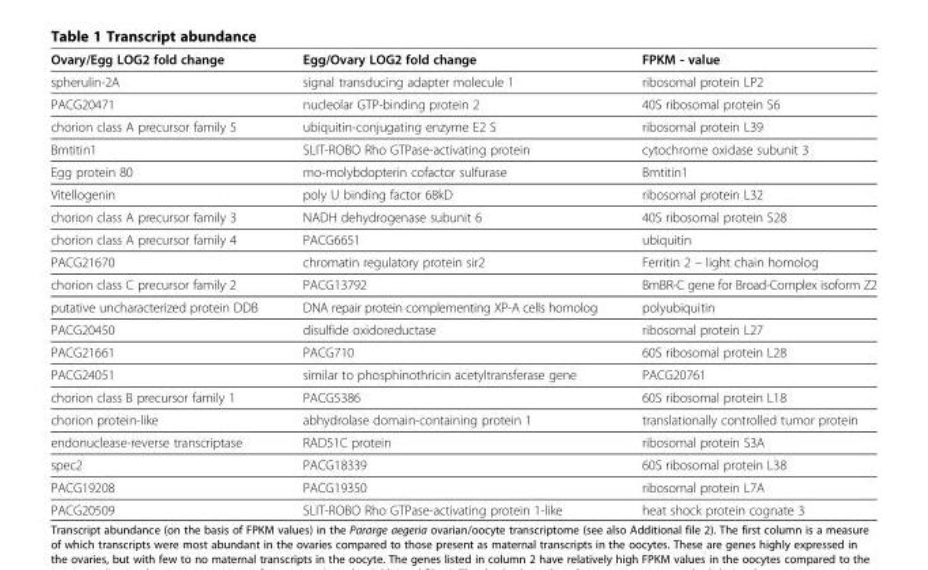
<table><thead><tr><td>Ovary/Egg LOG2 fold change</td><td>Egg/Ovary LOG2 fold change</td><td>FPKM - value</td></tr></thead><tbody><tr><td>spherulin-2A</td><td>signal transducing adapter molecule 1</td><td>ribosomal protein LP2</td></tr><tr><td>PACG20471</td><td>nucleolar GTP-binding protein 2</td><td>40S ribosomal protein S6</td></tr><tr><td>chorion class A precursor family 5</td><td>ubiquitin-conjugating enzyme E2 S</td><td>ribosomal protein L39</td></tr><tr><td>Bmtitin1</td><td>SLIT-ROBO Rho GTPase-activating protein</td><td>cytochrome oxidase subunit 3</td></tr><tr><td>Egg protein 80</td><td>mo-molybdopterin cofactor sulfurase</td><td>Bmtitin1</td></tr><tr><td>Vitellogenin</td><td>poly U binding factor 68kD</td><td>ribosomal protein L32</td></tr><tr><td>chorion class A precursor family 3</td><td>NADH dehydrogenase subunit 6</td><td>40S ribosomal protein S28</td></tr><tr><td>chorion class A precursor family 4</td><td>PACG6651</td><td>ubiquitin</td></tr><tr><td>PACG21670</td><td>chromatin regulatory protein sir2</td><td>Ferritin 2 – light chain homolog</td></tr><tr><td>chorion class C precursor family 2</td><td>PACG13792</td><td>BmBR-C gene for Broad-Complex isoform Z2</td></tr><tr><td>putative uncharacterized protein DDB</td><td>DNA repair protein complementing XP-A cells homolog</td><td>polyubiquitin</td></tr><tr><td>PACG20450</td><td>disulfide oxidoreductase</td><td>ribosomal protein L27</td></tr><tr><td>PACG21661</td><td>PACG710</td><td>60S ribosomal protein L28</td></tr><tr><td>PACG24051</td><td>similar to phosphinothricin acetyltransferase gene</td><td>PACG20761</td></tr><tr><td>chorion class B precursor family 1</td><td>PACG5386</td><td>60S ribosomal protein L18</td></tr><tr><td>chorion protein-like</td><td>abhydrolase domain-containing protein 1</td><td>translationally controlled tumor protein</td></tr><tr><td>endonuclease-reverse transcriptase</td><td>RAD51C protein</td><td>ribosomal protein S3A</td></tr><tr><td>spec2</td><td>PACG18339</td><td>60S ribosomal protein L38</td></tr><tr><td>PACG19208</td><td>PACG19350</td><td>ribosomal protein L7A</td></tr><tr><td>PACG20509</td><td>SLIT-ROBO Rho GTPase-activating protein 1-like</td><td>heat shock protein cognate 3</td></tr></tbody></table>